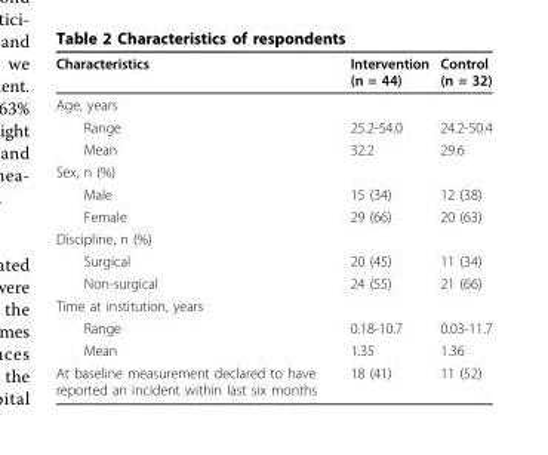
<table><thead><tr><td>Characteristics</td><td>Intervention (n = 44)</td><td>Control (n = 32)</td></tr></thead><tbody><tr><td colspan="3">Age, years</td></tr><tr><td>Range</td><td>25.2-54.0</td><td>24.2-50.4</td></tr><tr><td>Mean</td><td>32.2</td><td>29.6</td></tr><tr><td colspan="3">Sex, n (%)</td></tr><tr><td>Male</td><td>15 (34)</td><td>12 (38)</td></tr><tr><td>Female</td><td>29 (66)</td><td>20 (63)</td></tr><tr><td colspan="3">Discipline, n (%)</td></tr><tr><td>Surgical</td><td>20 (45)</td><td>11 (34)</td></tr><tr><td>Non-surgical</td><td>24 (55)</td><td>21 (66)</td></tr><tr><td colspan="3">Time at institution, years</td></tr><tr><td>Range</td><td>0.18-10.7</td><td>0.03-11.7</td></tr><tr><td>Mean</td><td>1.35</td><td>1.36</td></tr><tr><td>At baseline measurement declared to have reported an incident within last six months</td><td>18 (41)</td><td>11 (52)</td></tr></tbody></table>